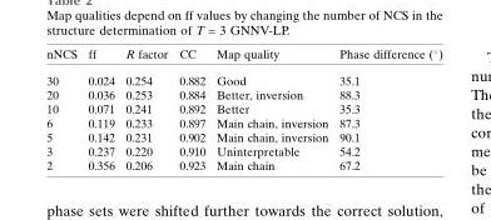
<table><thead><tr><td>nNCS</td><td>ff</td><td>R factor</td><td>CC</td><td>Map quality</td><td>Phase difference (°)</td></tr></thead><tbody><tr><td>30</td><td>0.024</td><td>0.254</td><td>0.882</td><td>Good</td><td>35.1</td></tr><tr><td>20</td><td>0.036</td><td>0.253</td><td>0.884</td><td>Better, inversion</td><td>88.3</td></tr><tr><td>10</td><td>0.071</td><td>0.241</td><td>0.892</td><td>Better</td><td>35.3</td></tr><tr><td>6</td><td>0.119</td><td>0.233</td><td>0.897</td><td>Main chain, inversion</td><td>87.3</td></tr><tr><td>5</td><td>0.142</td><td>0.231</td><td>0.902</td><td>Main chain, inversion</td><td>90.1</td></tr><tr><td>3</td><td>0.237</td><td>0.220</td><td>0.910</td><td>Uninterpretable</td><td>54.2</td></tr><tr><td>2</td><td>0.356</td><td>0.206</td><td>0.923</td><td>Main chain</td><td>67.2</td></tr></tbody></table>